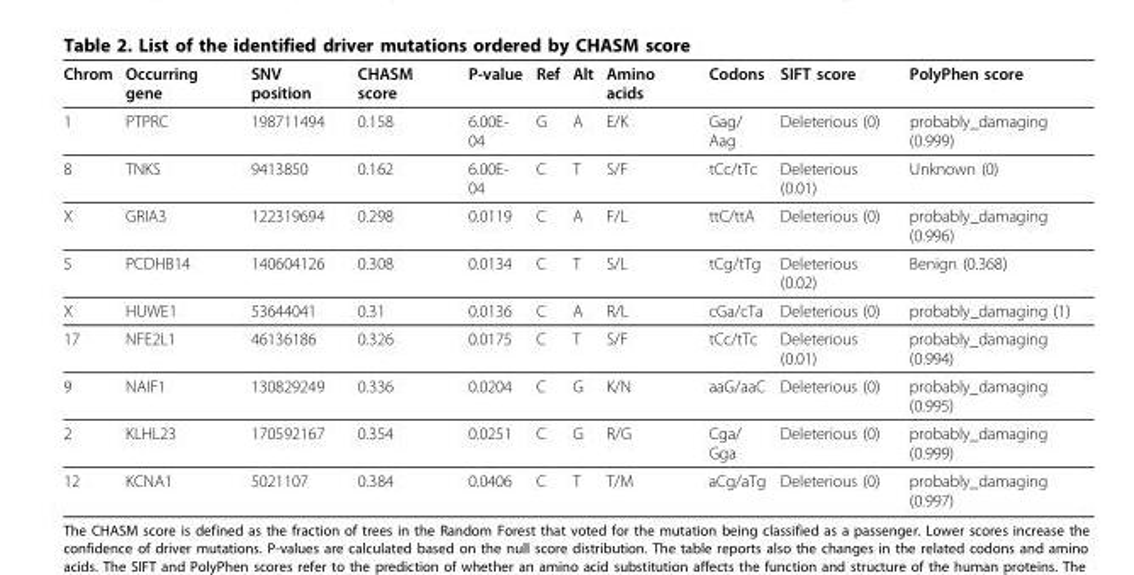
<table><thead><tr><td>Chrom</td><td>Occurring gene</td><td>SNV position</td><td>CHASM score</td><td>P-value</td><td>Ref</td><td>Alt</td><td>Amino acids</td><td>Codons</td><td>SIFT score</td><td>PolyPhen score</td></tr></thead><tbody><tr><td>1</td><td>PTPRC</td><td>198711494</td><td>0.158</td><td>6.00E- 04</td><td>G</td><td>A</td><td>E/K</td><td>Gag/ Aag</td><td>Deleterious (0)</td><td>probably_damaging (0.999)</td></tr><tr><td>8</td><td>TNKS</td><td>9413850</td><td>0.162</td><td>6.00E- 04</td><td>C</td><td>T</td><td>S/F</td><td>tCc/tTc</td><td>Deleterious (0.01)</td><td>Unknown (0)</td></tr><tr><td>X</td><td>GRIA3</td><td>122319694</td><td>0.298</td><td>0.0119</td><td>C</td><td>A</td><td>F/L</td><td>ttC/ttA</td><td>Deleterious (0)</td><td>probably_damaging (0.996)</td></tr><tr><td>5</td><td>PCDHB14</td><td>140604126</td><td>0.308</td><td>0.0134</td><td>C</td><td>T</td><td>S/L</td><td>tCg/tTg</td><td>Deleterious (0.02)</td><td>Benign (0.368)</td></tr><tr><td>X</td><td>HUWE1</td><td>53644041</td><td>0.31</td><td>0.0136</td><td>C</td><td>A</td><td>R/L</td><td>cGa/cTa</td><td>Deleterious (0)</td><td>probably_damaging (1)</td></tr><tr><td>17</td><td>NFE2L1</td><td>46136186</td><td>0.326</td><td>0.0175</td><td>C</td><td>T</td><td>S/F</td><td>tCc/tTc</td><td>Deleterious (0.01)</td><td>probably_damaging (0.994)</td></tr><tr><td>9</td><td>NAIF1</td><td>130829249</td><td>0.336</td><td>0.0204</td><td>C</td><td>G</td><td>K/N</td><td>aaG/aaC</td><td>Deleterious (0)</td><td>probably_damaging (0.995)</td></tr><tr><td>2</td><td>KLHL23</td><td>170592167</td><td>0.354</td><td>0.0251</td><td>C</td><td>G</td><td>R/G</td><td>Cga/ Gga</td><td>Deleterious (0)</td><td>probably_damaging (0.999)</td></tr><tr><td>12</td><td>KCNA1</td><td>5021107</td><td>0.384</td><td>0.0406</td><td>C</td><td>T</td><td>T/M</td><td>aCg/aTg</td><td>Deleterious (0)</td><td>probably_damaging (0.997)</td></tr></tbody></table>